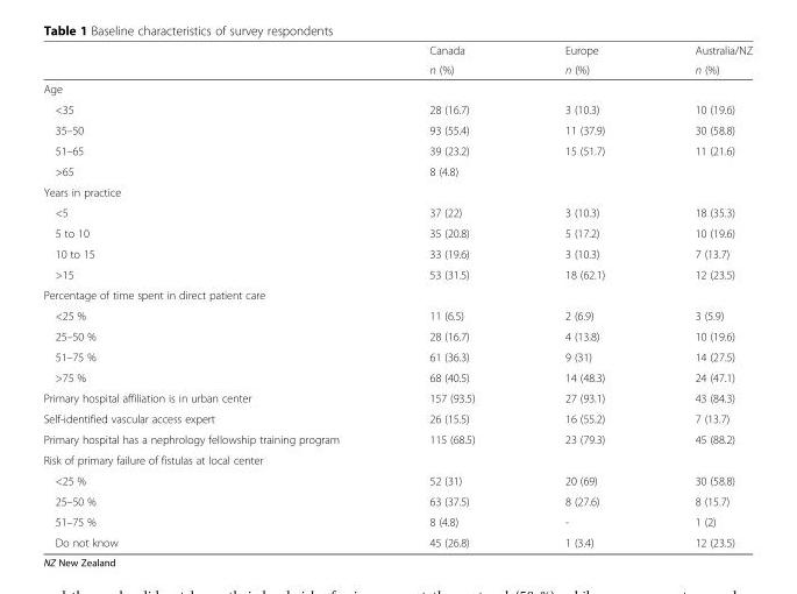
<table><thead><tr><td rowspan="2"></td><td rowspan="2">Canada n (%)</td><td rowspan="2">Europe n (%)</td><td rowspan="2">Australia/NZ n (%)</td></tr><tr></tr></thead><tbody><tr><td colspan="4">Age</td></tr><tr><td>&lt;35</td><td>28 (16.7)</td><td>3 (10.3)</td><td>10 (19.6)</td></tr><tr><td>35–50</td><td>93 (55.4)</td><td>11 (37.9)</td><td>30 (58.8)</td></tr><tr><td>51–65</td><td>39 (23.2)</td><td>15 (51.7)</td><td>11 (21.6)</td></tr><tr><td>&gt;65</td><td>8 (4.8)</td><td></td><td></td></tr><tr><td colspan="4">Years in practice</td></tr><tr><td>&lt;5</td><td>37 (22)</td><td>3 (10.3)</td><td>18 (35.3)</td></tr><tr><td>5 to 10</td><td>35 (20.8)</td><td>5 (17.2)</td><td>10 (19.6)</td></tr><tr><td>10 to 15</td><td>33 (19.6)</td><td>3 (10.3)</td><td>7 (13.7)</td></tr><tr><td>&gt;15</td><td>53 (31.5)</td><td>18 (62.1)</td><td>12 (23.5)</td></tr><tr><td colspan="4">Percentage of time spent in direct patient care</td></tr><tr><td>&lt;25 %</td><td>11 (6.5)</td><td>2 (6.9)</td><td>3 (5.9)</td></tr><tr><td>25–50 %</td><td>28 (16.7)</td><td>4 (13.8)</td><td>10 (19.6)</td></tr><tr><td>51–75 %</td><td>61 (36.3)</td><td>9 (31)</td><td>14 (27.5)</td></tr><tr><td>&gt;75 %</td><td>68 (40.5)</td><td>14 (48.3)</td><td>24 (47.1)</td></tr><tr><td>Primary hospital affiliation is in urban center</td><td>157 (93.5)</td><td>27 (93.1)</td><td>43 (84.3)</td></tr><tr><td>Self-identified vascular access expert</td><td>26 (15.5)</td><td>16 (55.2)</td><td>7 (13.7)</td></tr><tr><td>Primary hospital has a nephrology fellowship training program</td><td>115 (68.5)</td><td>23 (79.3)</td><td>45 (88.2)</td></tr><tr><td colspan="4">Risk of primary failure of fistulas at local center</td></tr><tr><td>&lt;25 %</td><td>52 (31)</td><td>20 (69)</td><td>30 (58.8)</td></tr><tr><td>25–50 %</td><td>63 (37.5)</td><td>8 (27.6)</td><td>8 (15.7)</td></tr><tr><td>51–75 %</td><td>8 (4.8)</td><td>-</td><td>1 (2)</td></tr><tr><td>Do not know</td><td>45 (26.8)</td><td>1 (3.4)</td><td>12 (23.5)</td></tr></tbody></table>